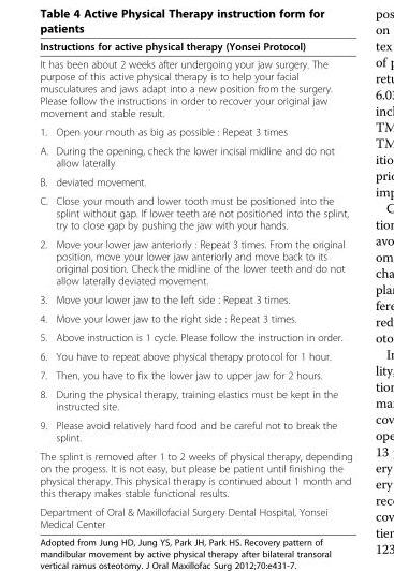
<table><thead><tr><td rowspan="2" colspan="2">Instructions for active physical therapy (Yonsei Protocol) It has been about 2 weeks after undergoing your jaw surgery. The purpose of this active physical therapy is to help your facial musculatures and jaws adapt into a new position from the surgery. Please follow the instructions in order to recover your original jaw movement and stable result.</td></tr><tr></tr><tr><td>1.</td><td>Open your mouth as big as possible : Repeat 3 times</td></tr></thead><tbody><tr><td>A.</td><td>During the opening, check the lower incisal midline and do not allow laterally</td></tr><tr><td>B.</td><td>deviated movement.</td></tr><tr><td>C.</td><td>Close your mouth and lower tooth must be positioned into the splint without gap. If lower teeth are not positioned into the splint, try to close gap by pushing the jaw with your hands.</td></tr><tr><td>2.</td><td>Move your lower jaw anteriorly : Repeat 3 times. From the original position, move your lower jaw anteriorly and move back to its original position. Check the midline of the lower teeth and do not allow laterally deviated movement.</td></tr><tr><td>3.</td><td>Move your lower jaw to the left side : Repeat 3 times.</td></tr><tr><td>4.</td><td>Move your lower jaw to the right side : Repeat 3 times.</td></tr><tr><td>5.</td><td>Above instruction is 1 cycle. Please follow the instruction in order.</td></tr><tr><td>6.</td><td>You have to repeat above physical therapy protocol for 1 hour.</td></tr><tr><td>7.</td><td>Then, you have to fix the lower jaw to upper jaw for 2 hours.</td></tr><tr><td>8.</td><td>During the physical therapy, training elastics must be kept in the instructed site.</td></tr><tr><td>9.</td><td>Please avoid relatively hard food and be careful not to break the splint.</td></tr><tr><td colspan="2">The splint is removed after 1 to 2 weeks of physical therapy, depending on the progess. It is not easy, but please be patient until finishing the physical therapy. This physical therapy is continued about 1 month and this therapy makes stable functional results.</td></tr><tr><td colspan="2">Department of Oral &amp; Maxillofacial Surgery Dental Hospital, Yonsei Medical Center</td></tr></tbody></table>